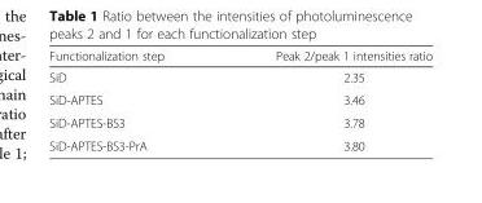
<table><thead><tr><td>Functionalization step</td><td>Peak 2/peak 1 intensities ratio</td></tr></thead><tbody><tr><td>SiD</td><td>2.35</td></tr><tr><td>SiD-APTES</td><td>3.46</td></tr><tr><td>SiD-APTES-BS3</td><td>3.78</td></tr><tr><td>SiD-APTES-BS3-PrA</td><td>3.80</td></tr></tbody></table>